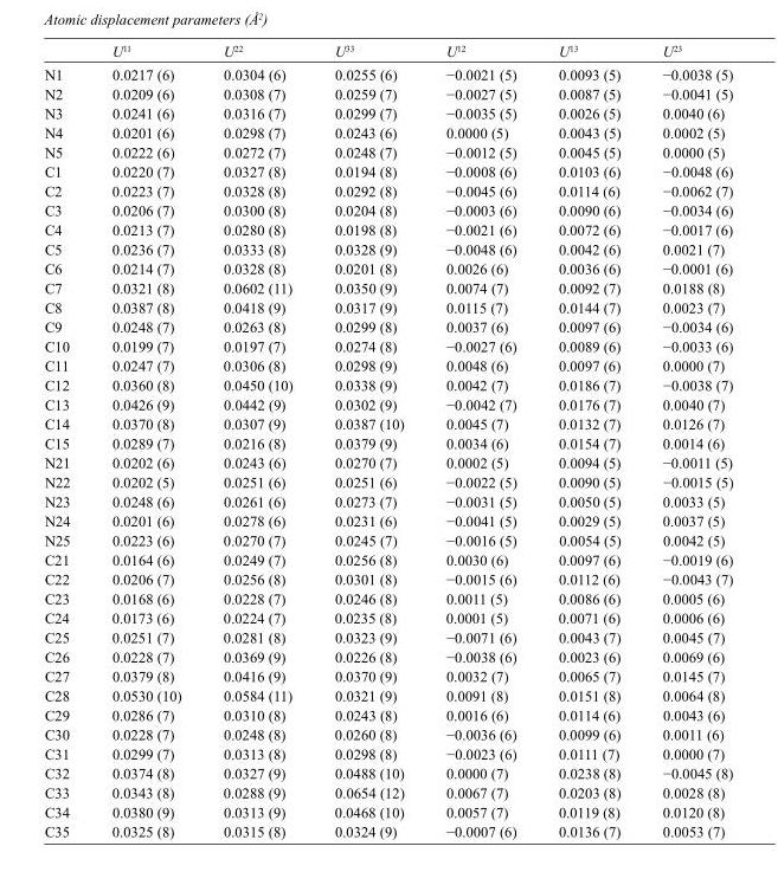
<table><thead><tr><td></td><td>U<sup>11</sup></td><td>U<sup>22</sup></td><td>U<sup>33</sup></td><td>U<sup>12</sup></td><td>U<sup>13</sup></td><td>U<sup>23</sup></td></tr></thead><tbody><tr><td>N1</td><td>0.0217 (6)</td><td>0.0304 (6)</td><td>0.0255 (6)</td><td>−0.0021 (5)</td><td>0.0093 (5)</td><td>−0.0038 (5)</td></tr><tr><td>N2</td><td>0.0209 (6)</td><td>0.0308 (7)</td><td>0.0259 (7)</td><td>−0.0027 (5)</td><td>0.0087 (5)</td><td>−0.0041 (5)</td></tr><tr><td>N3</td><td>0.0241 (6)</td><td>0.0316 (7)</td><td>0.0299 (7)</td><td>−0.0035 (5)</td><td>0.0026 (5)</td><td>0.0040 (6)</td></tr><tr><td>N4</td><td>0.0201 (6)</td><td>0.0298 (7)</td><td>0.0243 (6)</td><td>0.0000 (5)</td><td>0.0043 (5)</td><td>0.0002 (5)</td></tr><tr><td>N5</td><td>0.0222 (6)</td><td>0.0272 (7)</td><td>0.0248 (7)</td><td>−0.0012 (5)</td><td>0.0045 (5)</td><td>0.0000 (5)</td></tr><tr><td>C1</td><td>0.0220 (7)</td><td>0.0327 (8)</td><td>0.0194 (8)</td><td>−0.0008 (6)</td><td>0.0103 (6)</td><td>−0.0048 (6)</td></tr><tr><td>C2</td><td>0.0223 (7)</td><td>0.0328 (8)</td><td>0.0292 (8)</td><td>−0.0045 (6)</td><td>0.0114 (6)</td><td>−0.0062 (7)</td></tr><tr><td>C3</td><td>0.0206 (7)</td><td>0.0300 (8)</td><td>0.0204 (8)</td><td>−0.0003 (6)</td><td>0.0090 (6)</td><td>−0.0034 (6)</td></tr><tr><td>C4</td><td>0.0213 (7)</td><td>0.0280 (8)</td><td>0.0198 (8)</td><td>−0.0021 (6)</td><td>0.0072 (6)</td><td>−0.0017 (6)</td></tr><tr><td>C5</td><td>0.0236 (7)</td><td>0.0333 (8)</td><td>0.0328 (9)</td><td>−0.0048 (6)</td><td>0.0042 (6)</td><td>0.0021 (7)</td></tr><tr><td>C6</td><td>0.0214 (7)</td><td>0.0328 (8)</td><td>0.0201 (8)</td><td>0.0026 (6)</td><td>0.0036 (6)</td><td>−0.0001 (6)</td></tr><tr><td>C7</td><td>0.0321 (8)</td><td>0.0602 (11)</td><td>0.0350 (9)</td><td>0.0074 (7)</td><td>0.0092 (7)</td><td>0.0188 (8)</td></tr><tr><td>C8</td><td>0.0387 (8)</td><td>0.0418 (9)</td><td>0.0317 (9)</td><td>0.0115 (7)</td><td>0.0144 (7)</td><td>0.0023 (7)</td></tr><tr><td>C9</td><td>0.0248 (7)</td><td>0.0263 (8)</td><td>0.0299 (8)</td><td>0.0037 (6)</td><td>0.0097 (6)</td><td>−0.0034 (6)</td></tr><tr><td>C10</td><td>0.0199 (7)</td><td>0.0197 (7)</td><td>0.0274 (8)</td><td>−0.0027 (6)</td><td>0.0089 (6)</td><td>−0.0033 (6)</td></tr><tr><td>C11</td><td>0.0247 (7)</td><td>0.0306 (8)</td><td>0.0298 (9)</td><td>0.0048 (6)</td><td>0.0097 (6)</td><td>0.0000 (7)</td></tr><tr><td>C12</td><td>0.0360 (8)</td><td>0.0450 (10)</td><td>0.0338 (9)</td><td>0.0042 (7)</td><td>0.0186 (7)</td><td>−0.0038 (7)</td></tr><tr><td>C13</td><td>0.0426 (9)</td><td>0.0442 (9)</td><td>0.0302 (9)</td><td>−0.0042 (7)</td><td>0.0176 (7)</td><td>0.0040 (7)</td></tr><tr><td>C14</td><td>0.0370 (8)</td><td>0.0307 (9)</td><td>0.0387 (10)</td><td>0.0045 (7)</td><td>0.0132 (7)</td><td>0.0126 (7)</td></tr><tr><td>C15</td><td>0.0289 (7)</td><td>0.0216 (8)</td><td>0.0379 (9)</td><td>0.0034 (6)</td><td>0.0154 (7)</td><td>0.0014 (6)</td></tr><tr><td>N21</td><td>0.0202 (6)</td><td>0.0243 (6)</td><td>0.0270 (7)</td><td>0.0002 (5)</td><td>0.0094 (5)</td><td>−0.0011 (5)</td></tr><tr><td>N22</td><td>0.0202 (5)</td><td>0.0251 (6)</td><td>0.0251 (6)</td><td>−0.0022 (5)</td><td>0.0090 (5)</td><td>−0.0015 (5)</td></tr><tr><td>N23</td><td>0.0248 (6)</td><td>0.0261 (6)</td><td>0.0273 (7)</td><td>−0.0031 (5)</td><td>0.0050 (5)</td><td>0.0033 (5)</td></tr><tr><td>N24</td><td>0.0201 (6)</td><td>0.0278 (6)</td><td>0.0231 (6)</td><td>−0.0041 (5)</td><td>0.0029 (5)</td><td>0.0037 (5)</td></tr><tr><td>N25</td><td>0.0223 (6)</td><td>0.0270 (7)</td><td>0.0245 (7)</td><td>−0.0016 (5)</td><td>0.0054 (5)</td><td>0.0042 (5)</td></tr><tr><td>C21</td><td>0.0164 (6)</td><td>0.0249 (7)</td><td>0.0256 (8)</td><td>0.0030 (6)</td><td>0.0097 (6)</td><td>−0.0019 (6)</td></tr><tr><td>C22</td><td>0.0206 (7)</td><td>0.0256 (8)</td><td>0.0301 (8)</td><td>−0.0015 (6)</td><td>0.0112 (6)</td><td>−0.0043 (7)</td></tr><tr><td>C23</td><td>0.0168 (6)</td><td>0.0228 (7)</td><td>0.0246 (8)</td><td>0.0011 (5)</td><td>0.0086 (6)</td><td>0.0005 (6)</td></tr><tr><td>C24</td><td>0.0173 (6)</td><td>0.0224 (7)</td><td>0.0235 (8)</td><td>0.0001 (5)</td><td>0.0071 (6)</td><td>0.0006 (6)</td></tr><tr><td>C25</td><td>0.0251 (7)</td><td>0.0281 (8)</td><td>0.0323 (9)</td><td>−0.0071 (6)</td><td>0.0043 (7)</td><td>0.0045 (7)</td></tr><tr><td>C26</td><td>0.0228 (7)</td><td>0.0369 (9)</td><td>0.0226 (8)</td><td>−0.0038 (6)</td><td>0.0023 (6)</td><td>0.0069 (6)</td></tr><tr><td>C27</td><td>0.0379 (8)</td><td>0.0416 (9)</td><td>0.0370 (9)</td><td>0.0032 (7)</td><td>0.0065 (7)</td><td>0.0145 (7)</td></tr><tr><td>C28</td><td>0.0530 (10)</td><td>0.0584 (11)</td><td>0.0321 (9)</td><td>0.0091 (8)</td><td>0.0151 (8)</td><td>0.0064 (8)</td></tr><tr><td>C29</td><td>0.0286 (7)</td><td>0.0310 (8)</td><td>0.0243 (8)</td><td>0.0016 (6)</td><td>0.0114 (6)</td><td>0.0043 (6)</td></tr><tr><td>C30</td><td>0.0228 (7)</td><td>0.0248 (8)</td><td>0.0260 (8)</td><td>−0.0036 (6)</td><td>0.0099 (6)</td><td>0.0011 (6)</td></tr><tr><td>C31</td><td>0.0299 (7)</td><td>0.0313 (8)</td><td>0.0298 (8)</td><td>−0.0023 (6)</td><td>0.0111 (7)</td><td>0.0000 (7)</td></tr><tr><td>C32</td><td>0.0374 (8)</td><td>0.0327 (9)</td><td>0.0488 (10)</td><td>0.0000 (7)</td><td>0.0238 (8)</td><td>−0.0045 (8)</td></tr><tr><td>C33</td><td>0.0343 (8)</td><td>0.0288 (9)</td><td>0.0654 (12)</td><td>0.0067 (7)</td><td>0.0203 (8)</td><td>0.0028 (8)</td></tr><tr><td>C34</td><td>0.0380 (9)</td><td>0.0313 (9)</td><td>0.0468 (10)</td><td>0.0057 (7)</td><td>0.0119 (8)</td><td>0.0120 (8)</td></tr><tr><td>C35</td><td>0.0325 (8)</td><td>0.0315 (8)</td><td>0.0324 (9)</td><td>−0.0007 (6)</td><td>0.0136 (7)</td><td>0.0053 (7)</td></tr></tbody></table>